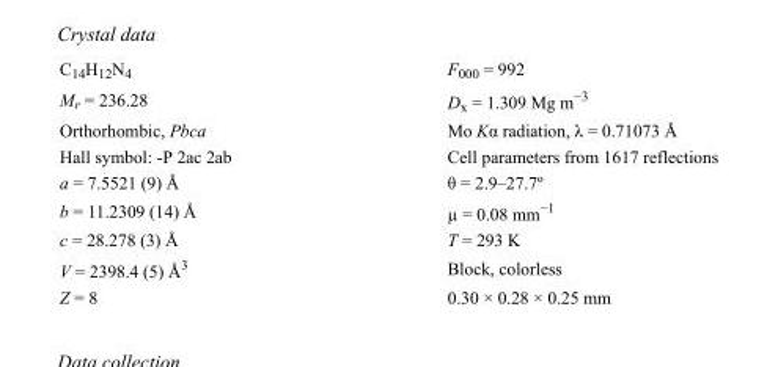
<table><tbody><tr><td>C<sub>14</sub>H<sub>12</sub>N<sub>4</sub></td><td>F000 = 992</td></tr><tr><td>M<sub>r</sub> = 236.28</td><td>D<sub>x</sub> = 1.309 Mg m<sup>−3</sup></td></tr><tr><td>Orthorhombic, Pbca</td><td>Mo Kα radiation, λ = 0.71073 Å</td></tr><tr><td>Hall symbol: -P 2ac 2ab</td><td>Cell parameters from 1617 reflections</td></tr><tr><td>a = 7.5521 (9) Å</td><td>θ = 2.9–27.7º</td></tr><tr><td>b = 11.2309 (14) Å</td><td>µ = 0.08 mm<sup>−1</sup></td></tr><tr><td>c = 28.278 (3) Å</td><td>T = 293 K</td></tr><tr><td>V = 2398.4 (5) Å<sup>3</sup></td><td>Block, colorless</td></tr><tr><td>Z = 8</td><td>0.30 × 0.28 × 0.25 mm</td></tr></tbody></table>